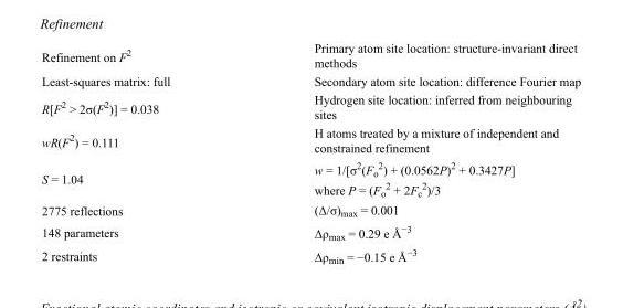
<table><tbody><tr><td>Refinement on F<sup>2</sup></td><td>Primary atom site location: structure-invariant direct methods</td></tr><tr><td>Least-squares matrix: full</td><td>Secondary atom site location: difference Fourier map</td></tr><tr><td>R[F<sup>2</sup> &gt; 2σ(F<sup>2</sup>)] = 0.038</td><td>Hydrogen site location: inferred from neighbouring sites</td></tr><tr><td>wR(F<sup>2</sup>) = 0.111</td><td>H atoms treated by a mixture of independent and constrained refinement</td></tr><tr><td>S = 1.04</td><td>w = 1/[σ<sup>2</sup>(F<sub>o</sub> <sup>2</sup>) + (0.0562P)<sup>2</sup> + 0.3427P] where P = (F<sub>o</sub> <sup>2</sup> + 2F<sub>c</sub> <sup>2</sup>)/3</td></tr><tr><td>2775 reflections</td><td>(Δ/σ)<sub>max</sub> = 0.001</td></tr><tr><td>148 parameters</td><td>Δρ<sub>max</sub> = 0.29 e Å<sup>−3</sup></td></tr><tr><td>2 restraints</td><td>Δρ<sub>min</sub> = −0.15 e Å<sup>−3</sup></td></tr></tbody></table>